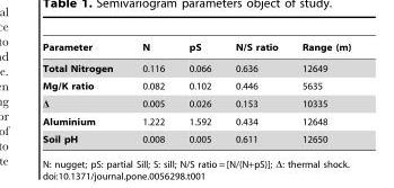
<table><thead><tr><td>Parameter</td><td>N</td><td>pS</td><td>N/S ratio</td><td>Range (m)</td></tr></thead><tbody><tr><td>Total Nitrogen</td><td>0.116</td><td>0.066</td><td>0.636</td><td>12649</td></tr><tr><td>Mg/K ratio</td><td>0.082</td><td>0.102</td><td>0.446</td><td>5635</td></tr><tr><td>Δ</td><td>0.005</td><td>0.026</td><td>0.153</td><td>10335</td></tr><tr><td>Aluminium</td><td>1.222</td><td>1.592</td><td>0.434</td><td>12648</td></tr><tr><td>Soil pH</td><td>0.008</td><td>0.005</td><td>0.611</td><td>12650</td></tr></tbody></table>